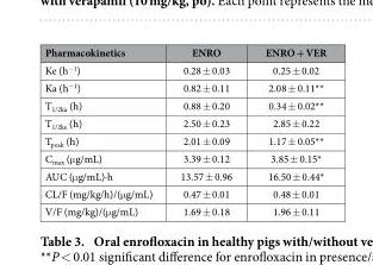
<table><thead><tr><td>Pharmacokinetics</td><td>ENRO</td><td>ENRO + VER</td></tr></thead><tbody><tr><td>Ke (h<sup>−1</sup>)</td><td>0.28 ± 0.03</td><td>0.25 ± 0.02</td></tr><tr><td>Ka (h<sup>−1</sup>)</td><td>0.82 ± 0.11</td><td>2.08 ± 0.11**</td></tr><tr><td>T<sub>1/2ka</sub> (h)</td><td>0.88 ± 0.20</td><td>0.34 ± 0.02**</td></tr><tr><td>T<sub>1/2ke</sub> (h)</td><td>2.50 ± 0.23</td><td>2.85 ± 0.22</td></tr><tr><td>T<sub>peak</sub> (h)</td><td>2.01 ± 0.09</td><td>1.17 ± 0.05**</td></tr><tr><td>C<sub>max</sub> (μ g/mL)</td><td>3.39 ± 0.12</td><td>3.85 ± 0.15*</td></tr><tr><td>AUC (μ g/mL)·h</td><td>13.57 ± 0.96</td><td>16.50 ± 0.44*</td></tr><tr><td>CL/F (mg/kg/h)/(μ g/mL)</td><td>0.47 ± 0.01</td><td>0.48 ± 0.01</td></tr><tr><td>V/F (mg/kg)/(μ g/mL)</td><td>1.69 ± 0.18</td><td>1.96 ± 0.11</td></tr></tbody></table>